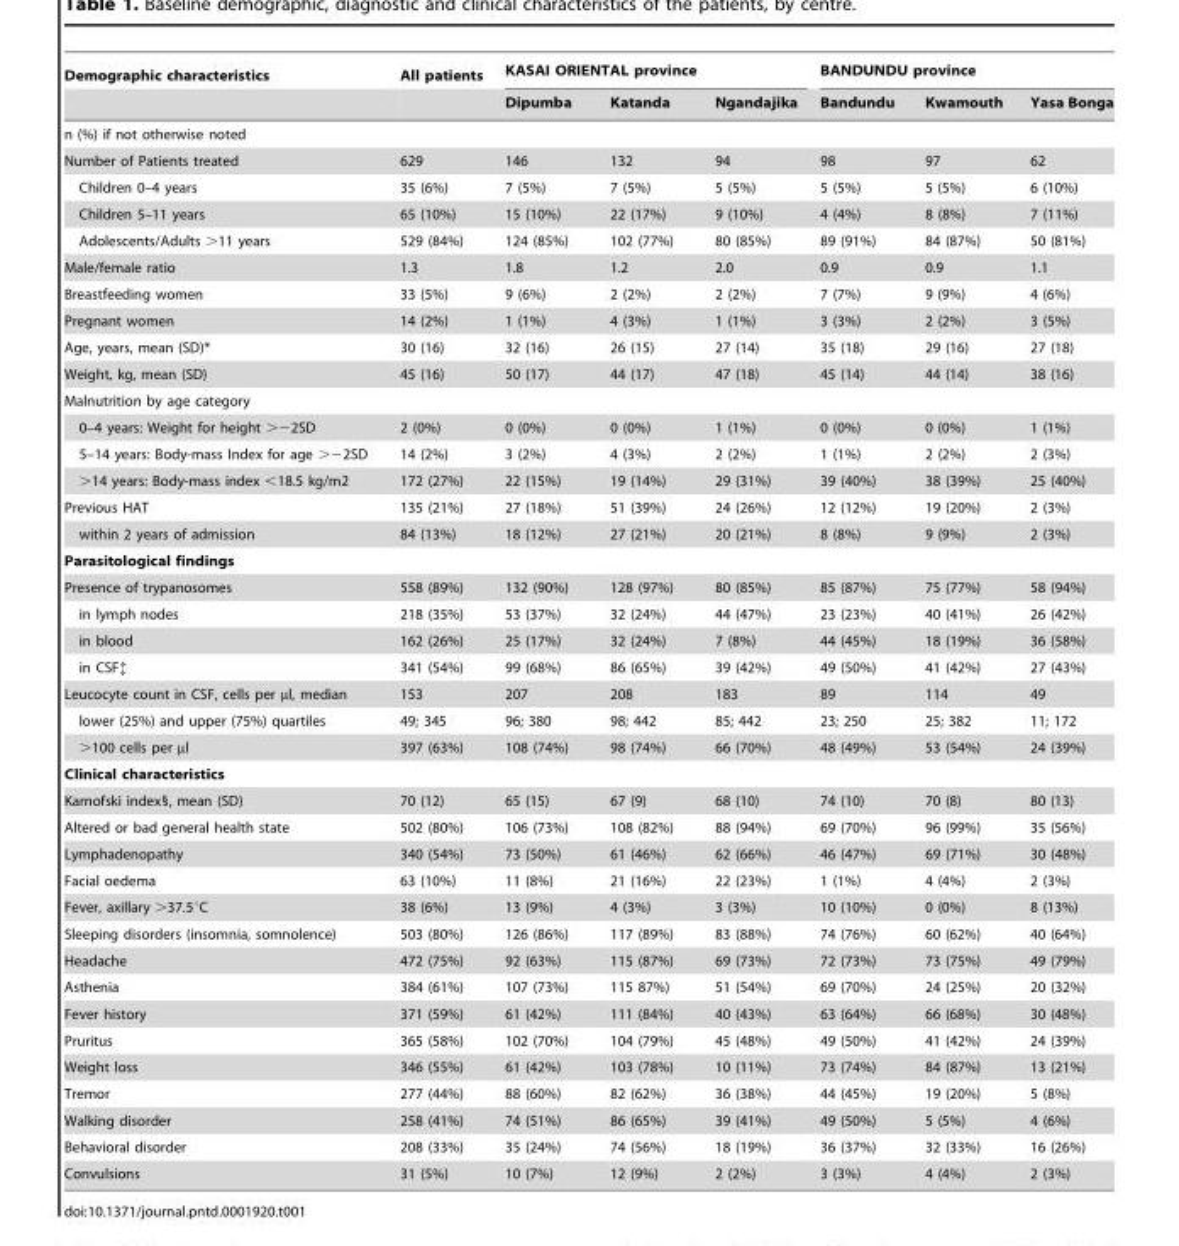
<table><thead><tr><td rowspan="2">Demographic characteristics</td><td rowspan="2">All patients</td><td colspan="3">KASAI ORIENTAL province</td><td colspan="3">BANDUNDU province</td></tr><tr><td>Dipumba</td><td>Katanda</td><td>Ngandajika</td><td>Bandundu</td><td>Kwamouth</td><td>Yasa Bonga</td></tr></thead><tbody><tr><td colspan="8">n (%) if not otherwise noted</td></tr><tr><td>Number of Patients treated</td><td>629</td><td>146</td><td>132</td><td>94</td><td>98</td><td>97</td><td>62</td></tr><tr><td>Children 0–4 years</td><td>35 (6%)</td><td>7 (5%)</td><td>7 (5%)</td><td>5 (5%)</td><td>5 (5%)</td><td>5 (5%)</td><td>6 (10%)</td></tr><tr><td>Children 5–11 years</td><td>65 (10%)</td><td>15 (10%)</td><td>22 (17%)</td><td>9 (10%)</td><td>4 (4%)</td><td>8 (8%)</td><td>7 (11%)</td></tr><tr><td>Adolescents/Adults &gt;11 years</td><td>529 (84%)</td><td>124 (85%)</td><td>102 (77%)</td><td>80 (85%)</td><td>89 (91%)</td><td>84 (87%)</td><td>50 (81%)</td></tr><tr><td>Male/female ratio</td><td>1.3</td><td>1.8</td><td>1.2</td><td>2.0</td><td>0.9</td><td>0.9</td><td>1.1</td></tr><tr><td>Breastfeeding women</td><td>33 (5%)</td><td>9 (6%)</td><td>2 (2%)</td><td>2 (2%)</td><td>7 (7%)</td><td>9 (9%)</td><td>4 (6%)</td></tr><tr><td>Pregnant women</td><td>14 (2%)</td><td>1 (1%)</td><td>4 (3%)</td><td>1 (1%)</td><td>3 (3%)</td><td>2 (2%)</td><td>3 (5%)</td></tr><tr><td>Age, years, mean (SD)*</td><td>30 (16)</td><td>32 (16)</td><td>26 (15)</td><td>27 (14)</td><td>35 (18)</td><td>29 (16)</td><td>27 (18)</td></tr><tr><td>Weight, kg, mean (SD)</td><td>45 (16)</td><td>50 (17)</td><td>44 (17)</td><td>47 (18)</td><td>45 (14)</td><td>44 (14)</td><td>38 (16)</td></tr><tr><td colspan="8">Malnutrition by age category</td></tr><tr><td>0–4 years: Weight for height &gt;−2SD</td><td>2 (0%)</td><td>0 (0%)</td><td>0 (0%)</td><td>1 (1%)</td><td>0 (0%)</td><td>0 (0%)</td><td>1 (1%)</td></tr><tr><td>5–14 years: Body-mass Index for age &gt;−2SD</td><td>14 (2%)</td><td>3 (2%)</td><td>4 (3%)</td><td>2 (2%)</td><td>1 (1%)</td><td>2 (2%)</td><td>2 (3%)</td></tr><tr><td>&gt;14 years: Body-mass index &lt;18.5 kg/m2</td><td>172 (27%)</td><td>22 (15%)</td><td>19 (14%)</td><td>29 (31%)</td><td>39 (40%)</td><td>38 (39%)</td><td>25 (40%)</td></tr><tr><td>Previous HAT</td><td>135 (21%)</td><td>27 (18%)</td><td>51 (39%)</td><td>24 (26%)</td><td>12 (12%)</td><td>19 (20%)</td><td>2 (3%)</td></tr><tr><td>within 2 years of admission</td><td>84 (13%)</td><td>18 (12%)</td><td>27 (21%)</td><td>20 (21%)</td><td>8 (8%)</td><td>9 (9%)</td><td>2 (3%)</td></tr><tr><td colspan="8">Parasitological findings</td></tr><tr><td>Presence of trypanosomes</td><td>558 (89%)</td><td>132 (90%)</td><td>128 (97%)</td><td>80 (85%)</td><td>85 (87%)</td><td>75 (77%)</td><td>58 (94%)</td></tr><tr><td>in lymph nodes</td><td>218 (35%)</td><td>53 (37%)</td><td>32 (24%)</td><td>44 (47%)</td><td>23 (23%)</td><td>40 (41%)</td><td>26 (42%)</td></tr><tr><td>in blood</td><td>162 (26%)</td><td>25 (17%)</td><td>32 (24%)</td><td>7 (8%)</td><td>44 (45%)</td><td>18 (19%)</td><td>36 (58%)</td></tr><tr><td>in CSF‡</td><td>341 (54%)</td><td>99 (68%)</td><td>86 (65%)</td><td>39 (42%)</td><td>49 (50%)</td><td>41 (42%)</td><td>27 (43%)</td></tr><tr><td>Leucocyte count in CSF, cells per µl, median</td><td>153</td><td>207</td><td>208</td><td>183</td><td>89</td><td>114</td><td>49</td></tr><tr><td>lower (25%) and upper (75%) quartiles</td><td>49; 345</td><td>96; 380</td><td>98; 442</td><td>85; 442</td><td>23; 250</td><td>25; 382</td><td>11; 172</td></tr><tr><td>&gt;100 cells per µl</td><td>397 (63%)</td><td>108 (74%)</td><td>98 (74%)</td><td>66 (70%)</td><td>48 (49%)</td><td>53 (54%)</td><td>24 (39%)</td></tr><tr><td colspan="8">Clinical characteristics</td></tr><tr><td>Karnofski index§, mean (SD)</td><td>70 (12)</td><td>65 (15)</td><td>67 (9)</td><td>68 (10)</td><td>74 (10)</td><td>70 (8)</td><td>80 (13)</td></tr><tr><td>Altered or bad general health state</td><td>502 (80%)</td><td>106 (73%)</td><td>108 (82%)</td><td>88 (94%)</td><td>69 (70%)</td><td>96 (99%)</td><td>35 (56%)</td></tr><tr><td>Lymphadenopathy</td><td>340 (54%)</td><td>73 (50%)</td><td>61 (46%)</td><td>62 (66%)</td><td>46 (47%)</td><td>69 (71%)</td><td>30 (48%)</td></tr><tr><td>Facial oedema</td><td>63 (10%)</td><td>11 (8%)</td><td>21 (16%)</td><td>22 (23%)</td><td>1 (1%)</td><td>4 (4%)</td><td>2 (3%)</td></tr><tr><td>Fever, axillary &gt;37.5°C</td><td>38 (6%)</td><td>13 (9%)</td><td>4 (3%)</td><td>3 (3%)</td><td>10 (10%)</td><td>0 (0%)</td><td>8 (13%)</td></tr><tr><td>Sleeping disorders (insomnia, somnolence)</td><td>503 (80%)</td><td>126 (86%)</td><td>117 (89%)</td><td>83 (88%)</td><td>74 (76%)</td><td>60 (62%)</td><td>40 (64%)</td></tr><tr><td>Headache</td><td>472 (75%)</td><td>92 (63%)</td><td>115 (87%)</td><td>69 (73%)</td><td>72 (73%)</td><td>73 (75%)</td><td>49 (79%)</td></tr><tr><td>Asthenia</td><td>384 (61%)</td><td>107 (73%)</td><td>115 87%)</td><td>51 (54%)</td><td>69 (70%)</td><td>24 (25%)</td><td>20 (32%)</td></tr><tr><td>Fever history</td><td>371 (59%)</td><td>61 (42%)</td><td>111 (84%)</td><td>40 (43%)</td><td>63 (64%)</td><td>66 (68%)</td><td>30 (48%)</td></tr><tr><td>Pruritus</td><td>365 (58%)</td><td>102 (70%)</td><td>104 (79%)</td><td>45 (48%)</td><td>49 (50%)</td><td>41 (42%)</td><td>24 (39%)</td></tr><tr><td>Weight loss</td><td>346 (55%)</td><td>61 (42%)</td><td>103 (78%)</td><td>10 (11%)</td><td>73 (74%)</td><td>84 (87%)</td><td>13 (21%)</td></tr><tr><td>Tremor</td><td>277 (44%)</td><td>88 (60%)</td><td>82 (62%)</td><td>36 (38%)</td><td>44 (45%)</td><td>19 (20%)</td><td>5 (8%)</td></tr><tr><td>Walking disorder</td><td>258 (41%)</td><td>74 (51%)</td><td>86 (65%)</td><td>39 (41%)</td><td>49 (50%)</td><td>5 (5%)</td><td>4 (6%)</td></tr><tr><td>Behavioral disorder</td><td>208 (33%)</td><td>35 (24%)</td><td>74 (56%)</td><td>18 (19%)</td><td>36 (37%)</td><td>32 (33%)</td><td>16 (26%)</td></tr><tr><td>Convulsions</td><td>31 (5%)</td><td>10 (7%)</td><td>12 (9%)</td><td>2 (2%)</td><td>3 (3%)</td><td>4 (4%)</td><td>2 (3%)</td></tr></tbody></table>